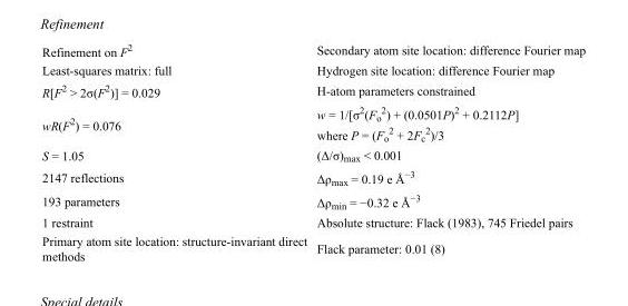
<table><tbody><tr><td>Refinement on F<sup>2</sup></td><td>Secondary atom site location: difference Fourier map</td></tr><tr><td>Least-squares matrix: full</td><td>Hydrogen site location: difference Fourier map</td></tr><tr><td>R[F<sup>2</sup> &gt; 2σ(F<sup>2</sup>)] = 0.029</td><td>H-atom parameters constrained</td></tr><tr><td>wR(F<sup>2</sup>) = 0.076</td><td>w = 1/[σ<sup>2</sup>(F<sub>o</sub> <sup>2</sup>) + (0.0501P)<sup>2</sup> + 0.2112P] where P = (F<sub>o</sub> <sup>2</sup> + 2F<sub>c</sub> <sup>2</sup>)/3</td></tr><tr><td>S = 1.05</td><td>(Δ/σ)<sub>max</sub> &lt; 0.001</td></tr><tr><td>2147 reflections</td><td>Δρ<sub>max</sub> = 0.19 e Å<sup>−3</sup></td></tr><tr><td>193 parameters</td><td>Δρ<sub>min</sub> = −0.32 e Å<sup>−3</sup></td></tr><tr><td>1 restraint</td><td>Absolute structure: Flack (1983), 745 Friedel pairs</td></tr><tr><td>Primary atom site location: structure-invariant direct methods</td><td>Flack parameter: 0.01 (8)</td></tr></tbody></table>